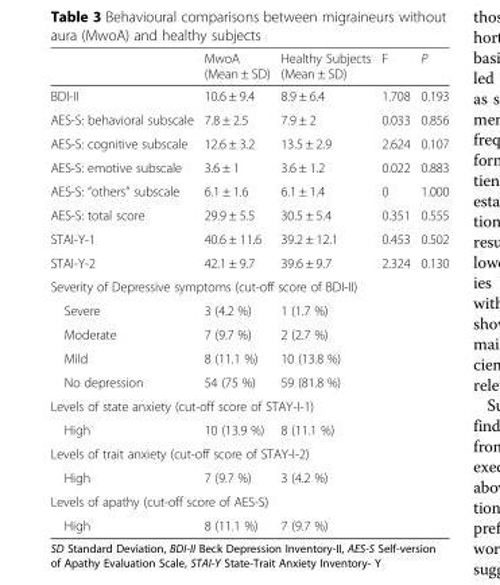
<table><thead><tr><td></td><td>MwoA (Mean ± SD)</td><td>Healthy Subjects (Mean ± SD)</td><td>F</td><td>P</td></tr></thead><tbody><tr><td>BDI-II</td><td>10.6 ± 9.4</td><td>8.9 ± 6.4</td><td>1.708</td><td>0.193</td></tr><tr><td>AES-S: behavioral subscale</td><td>7.8 ± 2.5</td><td>7.9 ± 2</td><td>0.033</td><td>0.856</td></tr><tr><td>AES-S: cognitive subscale</td><td>12.6 ± 3.2</td><td>13.5 ± 2.9</td><td>2.624</td><td>0.107</td></tr><tr><td>AES-S: emotive subscale</td><td>3.6 ± 1</td><td>3.6 ± 1.2</td><td>0.022</td><td>0.883</td></tr><tr><td>AES-S: “others” subscale</td><td>6.1 ± 1.6</td><td>6.1 ± 1.4</td><td>0</td><td>1.000</td></tr><tr><td>AES-S: total score</td><td>29.9 ± 5.5</td><td>30.5 ± 5.4</td><td>0.351</td><td>0.555</td></tr><tr><td>STAI-Y-1</td><td>40.6 ± 11.6</td><td>39.2 ± 12.1</td><td>0.453</td><td>0.502</td></tr><tr><td>STAI-Y-2</td><td>42.1 ± 9.7</td><td>39.6 ± 9.7</td><td>2.324</td><td>0.130</td></tr><tr><td colspan="5">Severity of Depressive symptoms (cut-off score of BDI-II)</td></tr><tr><td>Severe</td><td>3 (4.2 %)</td><td>1 (1.7 %)</td><td></td><td></td></tr><tr><td>Moderate</td><td>7 (9.7 %)</td><td>2 (2.7 %)</td><td></td><td></td></tr><tr><td>Mild</td><td>8 (11.1 %)</td><td>10 (13.8 %)</td><td></td><td></td></tr><tr><td>No depression</td><td>54 (75 %)</td><td>59 (81.8 %)</td><td></td><td></td></tr><tr><td colspan="5">Levels of state anxiety (cut-off score of STAY-I-1)</td></tr><tr><td>High</td><td>10 (13.9 %)</td><td>8 (11.1 %)</td><td></td><td></td></tr><tr><td colspan="5">Levels of trait anxiety (cut-off score of STAY-I-2)</td></tr><tr><td>High</td><td>7 (9.7 %)</td><td>3 (4.2 %)</td><td></td><td></td></tr><tr><td colspan="5">Levels of apathy (cut-off score of AES-S)</td></tr><tr><td>High</td><td>8 (11.1 %)</td><td>7 (9.7 %)</td><td></td><td></td></tr></tbody></table>